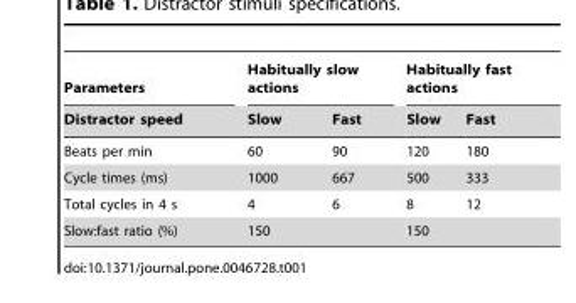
<table><thead><tr><td rowspan="2">Parameters Distractor speed</td><td colspan="2">Habitually slow actions</td><td colspan="2">Habitually fast actions</td></tr><tr><td>Slow</td><td>Fast</td><td>Slow</td><td>Fast</td></tr></thead><tbody><tr><td>Beats per min</td><td>60</td><td>90</td><td>120</td><td>180</td></tr><tr><td>Cycle times (ms)</td><td>1000</td><td>667</td><td>500</td><td>333</td></tr><tr><td>Total cycles in 4 s</td><td>4</td><td>6</td><td>8</td><td>12</td></tr><tr><td>Slow:fast ratio (%)</td><td colspan="2">150</td><td colspan="2">150</td></tr></tbody></table>